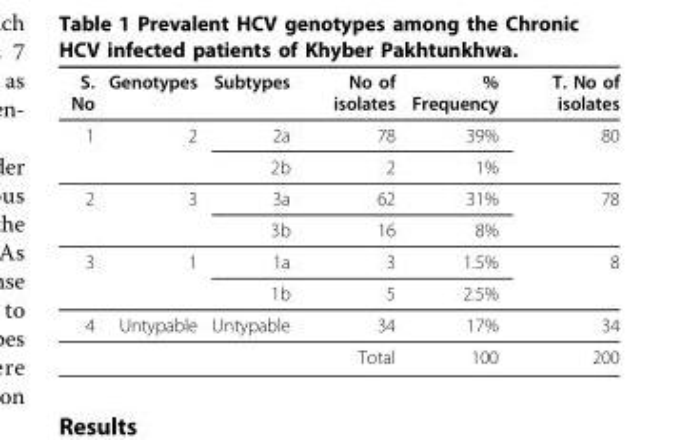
<table><thead><tr><td>S. No</td><td>Genotypes</td><td>Subtypes</td><td>No of isolates</td><td>% Frequency</td><td>T. No of isolates</td></tr></thead><tbody><tr><td rowspan="2">1</td><td>2</td><td>2a</td><td>78</td><td>39%</td><td>80</td></tr><tr><td></td><td>2b</td><td>2</td><td>1%</td><td></td></tr><tr><td rowspan="2">2</td><td>3</td><td>3a</td><td>62</td><td>31%</td><td>78</td></tr><tr><td></td><td>3b</td><td>16</td><td>8%</td><td></td></tr><tr><td rowspan="2">3</td><td>1</td><td>1a</td><td>3</td><td>1.5%</td><td>8</td></tr><tr><td></td><td>1b</td><td>5</td><td>2.5%</td><td></td></tr><tr><td rowspan="2">4</td><td>Untypable</td><td>Untypable</td><td>34</td><td>17%</td><td>34</td></tr><tr><td></td><td></td><td>Total</td><td>100</td><td>200</td></tr></tbody></table>